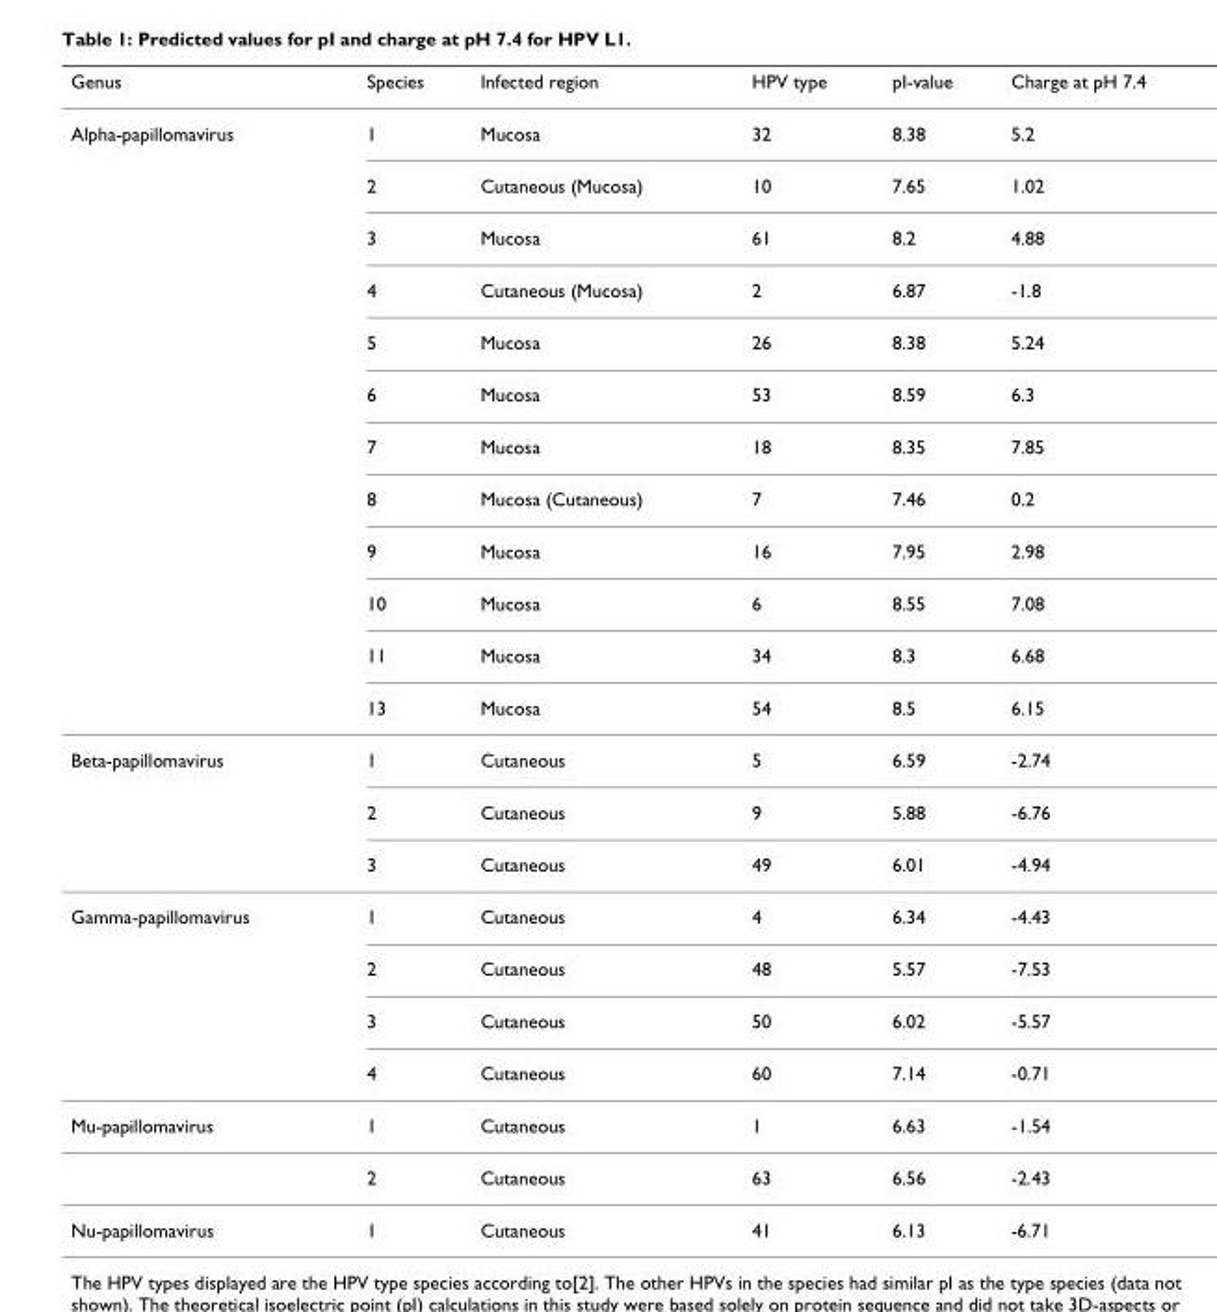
<table><thead><tr><td>Genus</td><td>Species</td><td>Infected region</td><td>HPV type</td><td>pI-value</td><td>Charge at pH 7.4</td></tr></thead><tbody><tr><td rowspan="12">Alpha-papillomavirus</td><td>1</td><td>Mucosa</td><td>32</td><td>8.38</td><td>5.2</td></tr><tr><td>2</td><td>Cutaneous (Mucosa)</td><td>10</td><td>7.65</td><td>1.02</td></tr><tr><td>3</td><td>Mucosa</td><td>61</td><td>8.2</td><td>4.88</td></tr><tr><td>4</td><td>Cutaneous (Mucosa)</td><td>2</td><td>6.87</td><td>-1.8</td></tr><tr><td>5</td><td>Mucosa</td><td>26</td><td>8.38</td><td>5.24</td></tr><tr><td>6</td><td>Mucosa</td><td>53</td><td>8.59</td><td>6.3</td></tr><tr><td>7</td><td>Mucosa</td><td>18</td><td>8.35</td><td>7.85</td></tr><tr><td>8</td><td>Mucosa (Cutaneous)</td><td>7</td><td>7.46</td><td>0.2</td></tr><tr><td>9</td><td>Mucosa</td><td>16</td><td>7.95</td><td>2.98</td></tr><tr><td>10</td><td>Mucosa</td><td>6</td><td>8.55</td><td>7.08</td></tr><tr><td>11</td><td>Mucosa</td><td>34</td><td>8.3</td><td>6.68</td></tr><tr><td>13</td><td>Mucosa</td><td>54</td><td>8.5</td><td>6.15</td></tr><tr><td rowspan="3">Beta-papillomavirus</td><td>1</td><td>Cutaneous</td><td>5</td><td>6.59</td><td>-2.74</td></tr><tr><td>2</td><td>Cutaneous</td><td>9</td><td>5.88</td><td>-6.76</td></tr><tr><td>3</td><td>Cutaneous</td><td>49</td><td>6.01</td><td>-4.94</td></tr><tr><td rowspan="4">Gamma-papillomavirus</td><td>1</td><td>Cutaneous</td><td>4</td><td>6.34</td><td>-4.43</td></tr><tr><td>2</td><td>Cutaneous</td><td>48</td><td>5.57</td><td>-7.53</td></tr><tr><td>3</td><td>Cutaneous</td><td>50</td><td>6.02</td><td>-5.57</td></tr><tr><td>4</td><td>Cutaneous</td><td>60</td><td>7.14</td><td>-0.71</td></tr><tr><td rowspan="2">Mu-papillomavirus</td><td>1</td><td>Cutaneous</td><td>1</td><td>6.63</td><td>-1.54</td></tr><tr><td>2</td><td>Cutaneous</td><td>63</td><td>6.56</td><td>-2.43</td></tr><tr><td>Nu-papillomavirus</td><td>1</td><td>Cutaneous</td><td>41</td><td>6.13</td><td>-6.71</td></tr></tbody></table>